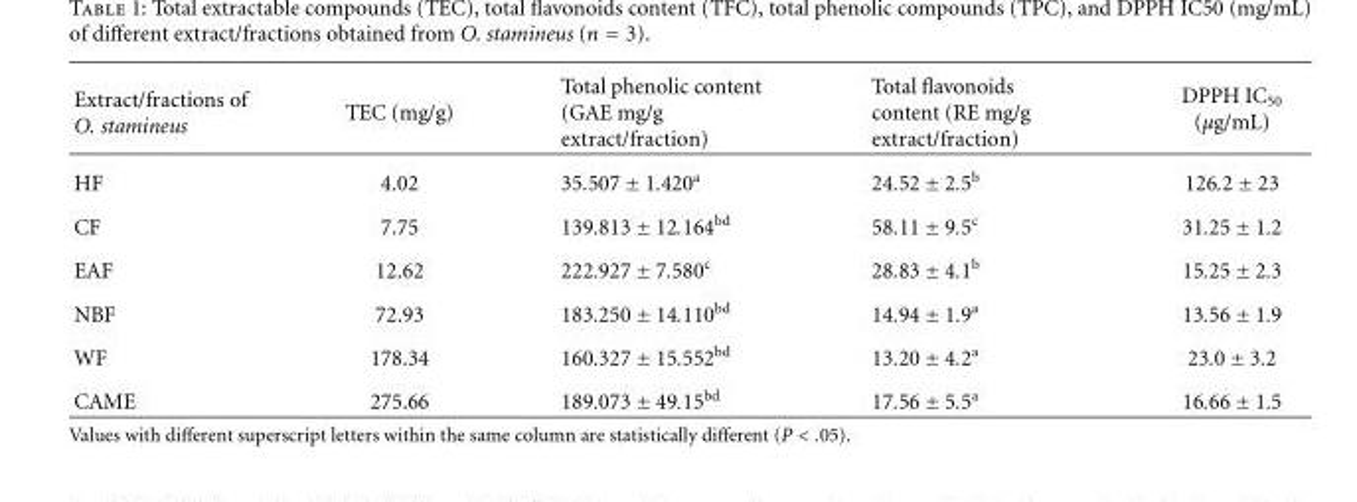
<table><thead><tr><td>Extract/fractions of O. stamineus</td><td>TEC (mg/g)</td><td>Total phenolic content (GAE mg/g extract/fraction)</td><td>Total flavonoids content (RE mg/g extract/fraction)</td><td>DPPH IC50 (μg/mL)</td></tr></thead><tbody><tr><td>HF</td><td>4.02</td><td>35.507 ± 1.420a</td><td>24.52 ± 2.5b</td><td>126.2 ± 23</td></tr><tr><td>CF</td><td>7.75</td><td>139.813 ± 12.164bd</td><td>58.11 ± 9.5c</td><td>31.25 ± 1.2</td></tr><tr><td>EAF</td><td>12.62</td><td>222.927 ± 7.580c</td><td>28.83 ± 4.1b</td><td>15.25 ± 2.3</td></tr><tr><td>NBF</td><td>72.93</td><td>183.250 ± 14.110bd</td><td>14.94 ± 1.9a</td><td>13.56 ± 1.9</td></tr><tr><td>WF</td><td>178.34</td><td>160.327 ± 15.552bd</td><td>13.20 ± 4.2a</td><td>23.0 ± 3.2</td></tr><tr><td>CAME</td><td>275.66</td><td>189.073 ± 49.15bd</td><td>17.56 ± 5.5a</td><td>16.66 ± 1.5</td></tr></tbody></table>